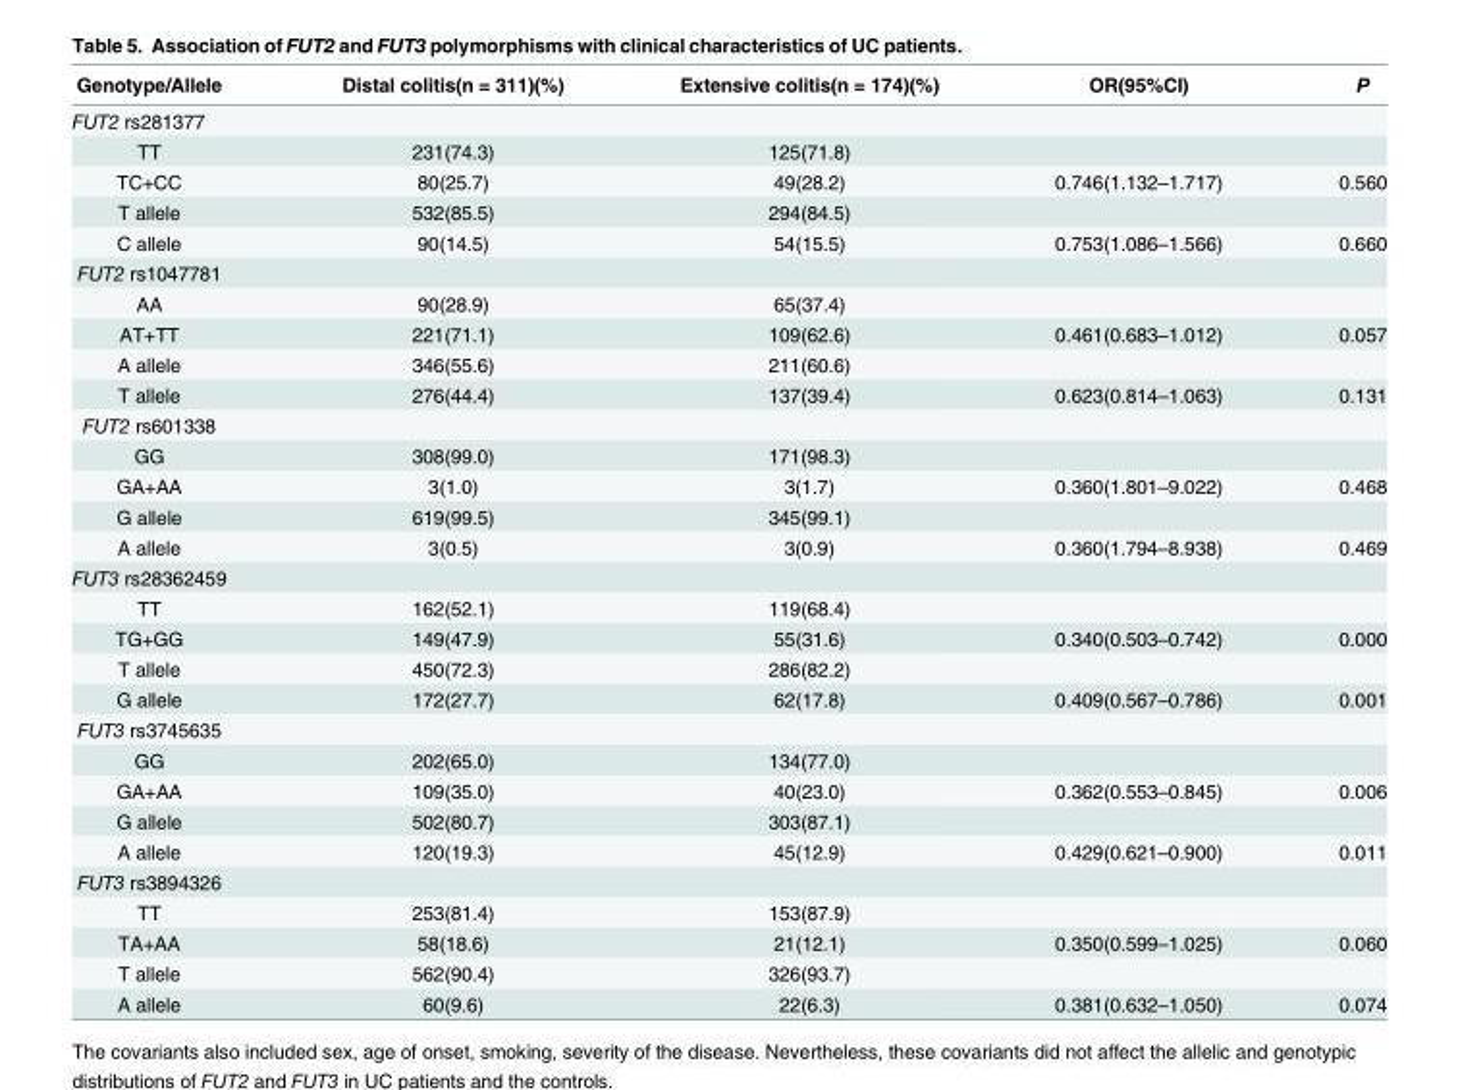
<table><thead><tr><td>Genotype/Allele</td><td>Distal colitis(n = 311)(%)</td><td>Extensive colitis(n = 174)(%)</td><td>OR(95%CI)</td><td>P</td></tr></thead><tbody><tr><td colspan="5">FUT2 rs281377</td></tr><tr><td>TT</td><td>231(74.3)</td><td>125(71.8)</td><td></td><td></td></tr><tr><td>TC+CC</td><td>80(25.7)</td><td>49(28.2)</td><td>0.746(1.132–1.717)</td><td>0.560</td></tr><tr><td>T allele</td><td>532(85.5)</td><td>294(84.5)</td><td></td><td></td></tr><tr><td>C allele</td><td>90(14.5)</td><td>54(15.5)</td><td>0.753(1.086–1.566)</td><td>0.660</td></tr><tr><td colspan="5">FUT2 rs1047781</td></tr><tr><td>AA</td><td>90(28.9)</td><td>65(37.4)</td><td></td><td></td></tr><tr><td>AT+TT</td><td>221(71.1)</td><td>109(62.6)</td><td>0.461(0.683–1.012)</td><td>0.057</td></tr><tr><td>A allele</td><td>346(55.6)</td><td>211(60.6)</td><td></td><td></td></tr><tr><td>T allele</td><td>276(44.4)</td><td>137(39.4)</td><td>0.623(0.814–1.063)</td><td>0.131</td></tr><tr><td colspan="5">FUT2 rs601338</td></tr><tr><td>GG</td><td>308(99.0)</td><td>171(98.3)</td><td></td><td></td></tr><tr><td>GA+AA</td><td>3(1.0)</td><td>3(1.7)</td><td>0.360(1.801–9.022)</td><td>0.468</td></tr><tr><td>G allele</td><td>619(99.5)</td><td>345(99.1)</td><td></td><td></td></tr><tr><td>A allele</td><td>3(0.5)</td><td>3(0.9)</td><td>0.360(1.794–8.938)</td><td>0.469</td></tr><tr><td colspan="5">FUT3 rs28362459</td></tr><tr><td>TT</td><td>162(52.1)</td><td>119(68.4)</td><td></td><td></td></tr><tr><td>TG+GG</td><td>149(47.9)</td><td>55(31.6)</td><td>0.340(0.503–0.742)</td><td>0.000</td></tr><tr><td>T allele</td><td>450(72.3)</td><td>286(82.2)</td><td></td><td></td></tr><tr><td>G allele</td><td>172(27.7)</td><td>62(17.8)</td><td>0.409(0.567–0.786)</td><td>0.001</td></tr><tr><td colspan="5">FUT3 rs3745635</td></tr><tr><td>GG</td><td>202(65.0)</td><td>134(77.0)</td><td></td><td></td></tr><tr><td>GA+AA</td><td>109(35.0)</td><td>40(23.0)</td><td>0.362(0.553–0.845)</td><td>0.006</td></tr><tr><td>G allele</td><td>502(80.7)</td><td>303(87.1)</td><td></td><td></td></tr><tr><td>A allele</td><td>120(19.3)</td><td>45(12.9)</td><td>0.429(0.621–0.900)</td><td>0.011</td></tr><tr><td colspan="5">FUT3 rs3894326</td></tr><tr><td>TT</td><td>253(81.4)</td><td>153(87.9)</td><td></td><td></td></tr><tr><td>TA+AA</td><td>58(18.6)</td><td>21(12.1)</td><td>0.350(0.599–1.025)</td><td>0.060</td></tr><tr><td>T allele</td><td>562(90.4)</td><td>326(93.7)</td><td></td><td></td></tr><tr><td>A allele</td><td>60(9.6)</td><td>22(6.3)</td><td>0.381(0.632–1.050)</td><td>0.074</td></tr></tbody></table>